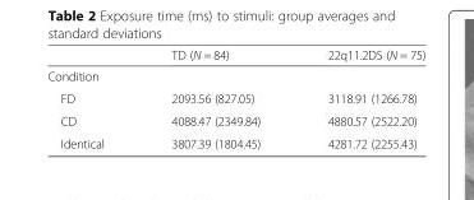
<table><thead><tr><td></td><td>TD (N = 84)</td><td>22q11.2DS (N = 75)</td></tr></thead><tbody><tr><td colspan="3">Condition</td></tr><tr><td>FD</td><td>2093.56 (827.05)</td><td>3118.91 (1266.78)</td></tr><tr><td>CD</td><td>4088.47 (2349.84)</td><td>4880.57 (2522.20)</td></tr><tr><td>Identical</td><td>3807.39 (1804.45)</td><td>4281.72 (2255.43)</td></tr></tbody></table>